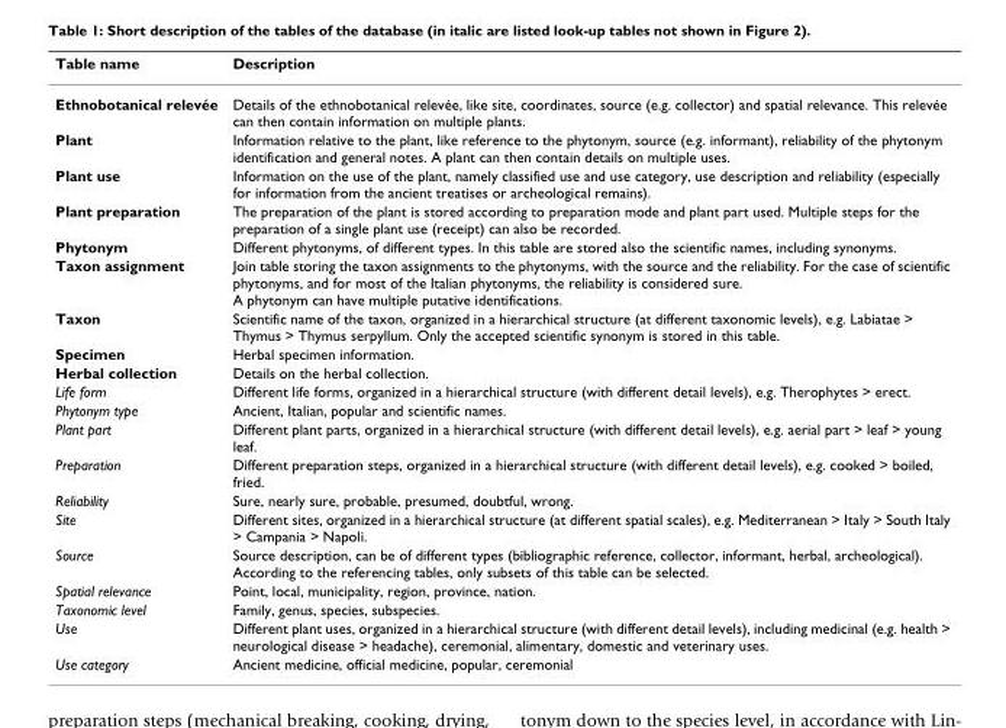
<table><thead><tr><td>Table name</td><td>Description</td></tr></thead><tbody><tr><td>Ethnobotanical relevée</td><td>Details of the ethnobotanical relevée, like site, coordinates, source (e.g. collector) and spatial relevance. This relevée can then contain information on multiple plants.</td></tr><tr><td>Plant</td><td>Information relative to the plant, like reference to the phytonym, source (e.g. informant), reliability of the phytonym identification and general notes. A plant can then contain details on multiple uses.</td></tr><tr><td>Plant use</td><td>Information on the use of the plant, namely classified use and use category, use description and reliability (especially for information from the ancient treatises or archeological remains).</td></tr><tr><td>Plant preparation</td><td>The preparation of the plant is stored according to preparation mode and plant part used. Multiple steps for the preparation of a single plant use (receipt) can also be recorded.</td></tr><tr><td>Phytonym</td><td>Different phytonyms, of different types. In this table are stored also the scientific names, including synonyms.</td></tr><tr><td>Taxon assignment</td><td>Join table storing the taxon assignments to the phytonyms, with the source and the reliability. For the case of scientific phytonyms, and for most of the Italian phytonyms, the reliability is considered sure. A phytonym can have multiple putative identifications.</td></tr><tr><td>Taxon</td><td>Scientific name of the taxon, organized in a hierarchical structure (at different taxonomic levels), e.g. Labiatae &gt; Thymus &gt; Thymus serpyllum. Only the accepted scientific synonym is stored in this table.</td></tr><tr><td>Specimen</td><td>Herbal specimen information.</td></tr><tr><td>Herbal collection</td><td>Details on the herbal collection.</td></tr><tr><td>Life form</td><td>Different life forms, organized in a hierarchical structure (with different detail levels), e.g. Therophytes &gt; erect.</td></tr><tr><td>Phytonym type</td><td>Ancient, Italian, popular and scientific names.</td></tr><tr><td>Plant part</td><td>Different plant parts, organized in a hierarchical structure (with different detail levels), e.g. aerial part &gt; leaf &gt; young leaf.</td></tr><tr><td>Preparation</td><td>Different preparation steps, organized in a hierarchical structure (with different detail levels), e.g. cooked &gt; boiled, fried.</td></tr><tr><td>Reliability</td><td>Sure, nearly sure, probable, presumed, doubtful, wrong.</td></tr><tr><td>Site</td><td>Different sites, organized in a hierarchical structure (at different spatial scales), e.g. Mediterranean &gt; Italy &gt; South Italy &gt; Campania &gt; Napoli.</td></tr><tr><td>Source</td><td>Source description, can be of different types (bibliographic reference, collector, informant, herbal, archeological). According to the referencing tables, only subsets of this table can be selected.</td></tr><tr><td>Spatial relevance</td><td>Point, local, municipality, region, province, nation.</td></tr><tr><td>Taxonomic level</td><td>Family, genus, species, subspecies.</td></tr><tr><td>Use</td><td>Different plant uses, organized in a hierarchical structure (with different detail levels), including medicinal (e.g. health &gt; neurological disease &gt; headache), ceremonial, alimentary, domestic and veterinary uses.</td></tr><tr><td>Use category</td><td>Ancient medicine, official medicine, popular, ceremonial</td></tr></tbody></table>